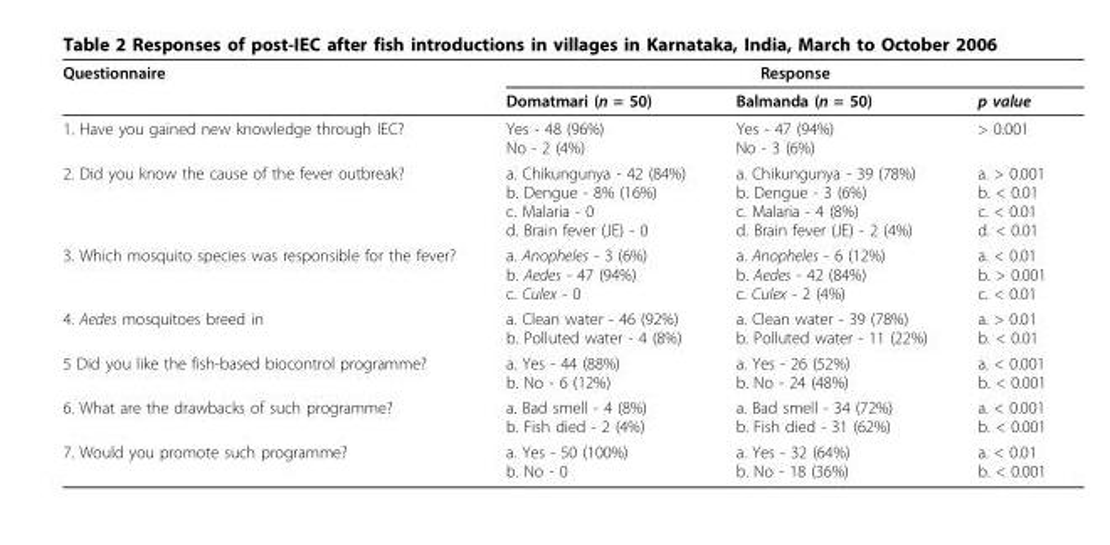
<table><thead><tr><td rowspan="2">Questionnaire</td><td colspan="3">Response</td></tr><tr><td>Domatmari (n = 50)</td><td>Balmanda (n = 50)</td><td>p value</td></tr></thead><tbody><tr><td>1. Have you gained new knowledge through IEC?</td><td>Yes - 48 (96%) No - 2 (4%)</td><td>Yes - 47 (94%) No - 3 (6%)</td><td>&gt; 0.001</td></tr><tr><td>2. Did you know the cause of the fever outbreak?</td><td>a. Chikungunya - 42 (84%) b. Dengue - 8% (16%) c. Malaria - 0 d. Brain fever (JE) - 0</td><td>a. Chikungunya - 39 (78%) b. Dengue - 3 (6%) c. Malaria - 4 (8%) d. Brain fever (JE) - 2 (4%)</td><td>a. &gt; 0.001 b. &lt; 0.01 c. &lt; 0.01 d. &lt; 0.01</td></tr><tr><td>3. Which mosquito species was responsible for the fever?</td><td>a. Anopheles - 3 (6%) b. Aedes - 47 (94%) c. Culex - 0</td><td>a. Anopheles - 6 (12%) b. Aedes - 42 (84%) c. Culex - 2 (4%)</td><td>a. &lt; 0.01 b. &gt; 0.001 c. &lt; 0.01</td></tr><tr><td>4. Aedes mosquitoes breed in</td><td>a. Clean water - 46 (92%) b. Polluted water - 4 (8%)</td><td>a. Clean water - 39 (78%) b. Polluted water - 11 (22%)</td><td>a. &gt; 0.01 b. &lt; 0.01</td></tr><tr><td>5 Did you like the fish-based biocontrol programme?</td><td>a. Yes - 44 (88%) b. No - 6 (12%)</td><td>a. Yes - 26 (52%) b. No - 24 (48%)</td><td>a. &lt; 0.001 b. &lt; 0.001</td></tr><tr><td>6. What are the drawbacks of such programme?</td><td>a. Bad smell - 4 (8%) b. Fish died - 2 (4%)</td><td>a. Bad smell - 34 (72%) b. Fish died - 31 (62%)</td><td>a. &lt; 0.001 b. &lt; 0.001</td></tr><tr><td>7. Would you promote such programme?</td><td>a. Yes - 50 (100%) b. No - 0</td><td>a. Yes - 32 (64%) b. No - 18 (36%)</td><td>a. &lt; 0.01 b. &lt; 0.001</td></tr></tbody></table>